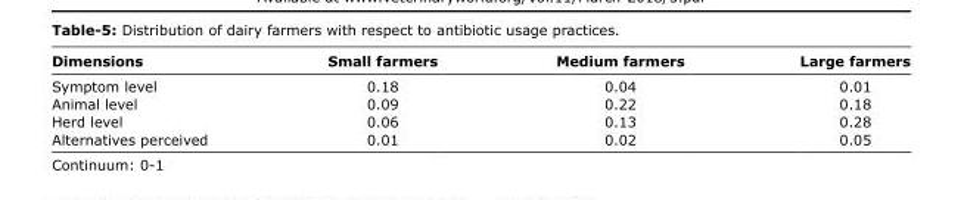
<table><thead><tr><td>Dimensions</td><td>Small farmers</td><td>Medium farmers</td><td>Large farmers</td></tr></thead><tbody><tr><td>Symptom level</td><td>0.18</td><td>0.04</td><td>0.01</td></tr><tr><td>Animal level</td><td>0.09</td><td>0.22</td><td>0.18</td></tr><tr><td>Herd level</td><td>0.06</td><td>0.13</td><td>0.28</td></tr><tr><td>Alternatives perceived</td><td>0.01</td><td>0.02</td><td>0.05</td></tr></tbody></table>